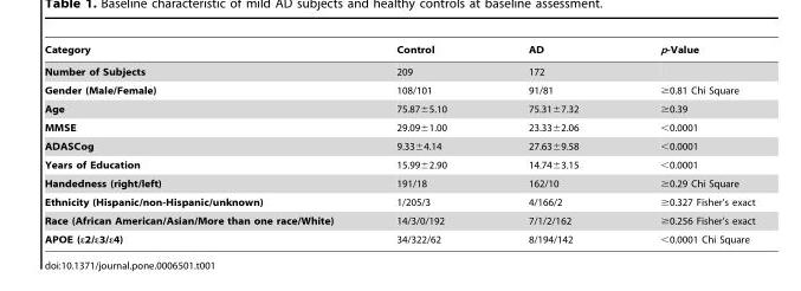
<table><thead><tr><td>Category</td><td>Control</td><td>AD</td><td>p-Value</td></tr></thead><tbody><tr><td>Number of Subjects</td><td>209</td><td>172</td><td></td></tr><tr><td>Gender (Male/Female)</td><td>108/101</td><td>91/81</td><td>≥0.81 Chi Square</td></tr><tr><td>Age</td><td>75.87±5.10</td><td>75.31±7.32</td><td>≥0.39</td></tr><tr><td>MMSE</td><td>29.09±1.00</td><td>23.33±2.06</td><td>&lt;0.0001</td></tr><tr><td>ADASCog</td><td>9.33±4.14</td><td>27.63±9.58</td><td>&lt;0.0001</td></tr><tr><td>Years of Education</td><td>15.99±2.90</td><td>14.74±3.15</td><td>&lt;0.0001</td></tr><tr><td>Handedness (right/left)</td><td>191/18</td><td>162/10</td><td>≥0.29 Chi Square</td></tr><tr><td>Ethnicity (Hispanic/non-Hispanic/unknown)</td><td>1/205/3</td><td>4/166/2</td><td>≥0.327 Fisher’s exact</td></tr><tr><td>Race (African American/Asian/More than one race/White)</td><td>14/3/0/192</td><td>7/1/2/162</td><td>≥0.256 Fisher’s exact</td></tr><tr><td>APOE (ε2/ε3/ε4)</td><td>34/322/62</td><td>8/194/142</td><td>&lt;0.0001 Chi Square</td></tr></tbody></table>